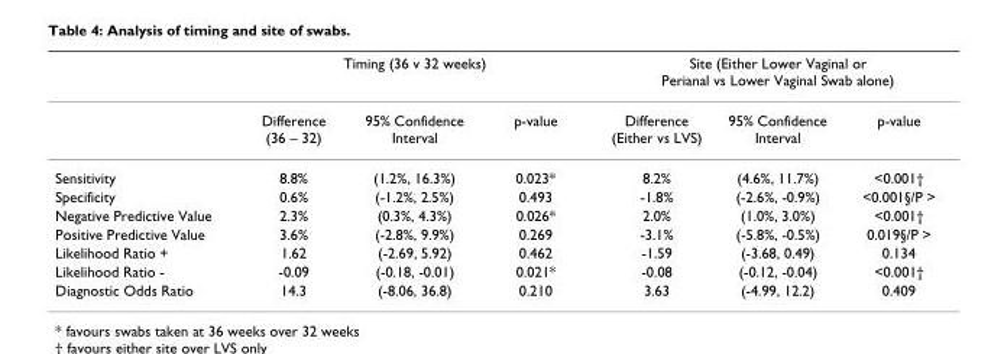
<table><thead><tr><td rowspan="2"></td><td colspan="3">Timing (36 v 32 weeks)</td><td colspan="3">Site (Either Lower Vaginal or Perianal vs Lower Vaginal Swab alone)</td></tr><tr><td>Difference (36 – 32)</td><td>95% Confidence Interval</td><td>p-value</td><td>Difference (Either vs LVS)</td><td>95% Confidence Interval</td><td>p-value</td></tr></thead><tbody><tr><td>Sensitivity</td><td>8.8%</td><td>(1.2%, 16.3%)</td><td>0.023*</td><td>8.2%</td><td>(4.6%, 11.7%)</td><td>&lt;0.001†</td></tr><tr><td>Specificity</td><td>0.6%</td><td>(-1.2%, 2.5%)</td><td>0.493</td><td>-1.8%</td><td>(-2.6%, -0.9%)</td><td>&lt;0.001§/P &gt;</td></tr><tr><td>Negative Predictive Value</td><td>2.3%</td><td>(0.3%, 4.3%)</td><td>0.026*</td><td>2.0%</td><td>(1.0%, 3.0%)</td><td>&lt;0.001†</td></tr><tr><td>Positive Predictive Value</td><td>3.6%</td><td>(-2.8%, 9.9%)</td><td>0.269</td><td>-3.1%</td><td>(-5.8%, -0.5%)</td><td>0.019§/P &gt;</td></tr><tr><td>Likelihood Ratio +</td><td>1.62</td><td>(-2.69, 5.92)</td><td>0.462</td><td>-1.59</td><td>(-3.68, 0.49)</td><td>0.134</td></tr><tr><td>Likelihood Ratio -</td><td>-0.09</td><td>(-0.18, -0.01)</td><td>0.021*</td><td>-0.08</td><td>(-0.12, -0.04)</td><td>&lt;0.001†</td></tr><tr><td>Diagnostic Odds Ratio</td><td>14.3</td><td>(-8.06, 36.8)</td><td>0.210</td><td>3.63</td><td>(-4.99, 12.2)</td><td>0.409</td></tr></tbody></table>